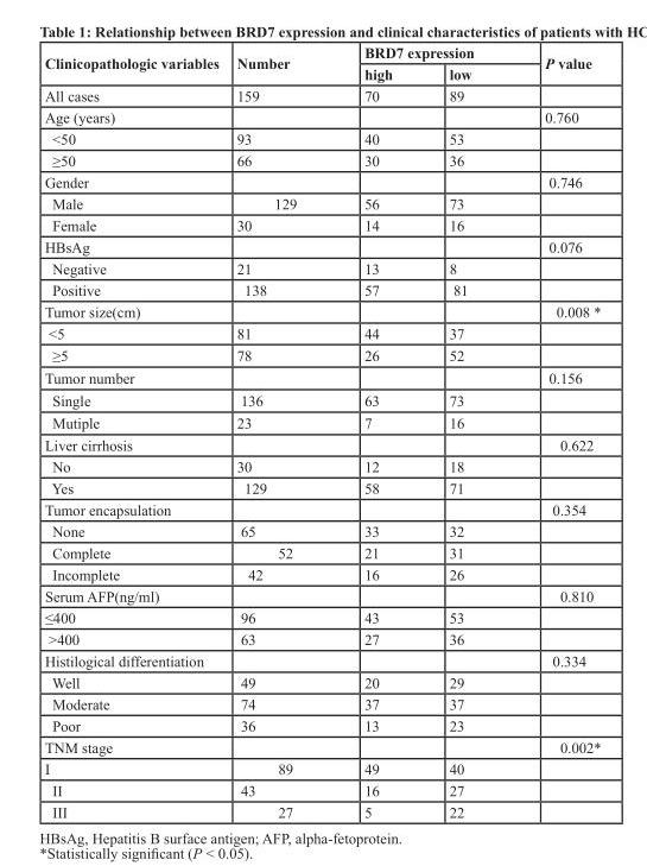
<table><thead><tr><td rowspan="2">Clinicopathologic variables</td><td rowspan="2">Number</td><td colspan="2">BRD7 expression</td><td rowspan="2">P value</td></tr><tr><td>high</td><td>low</td></tr></thead><tbody><tr><td>All cases</td><td>159</td><td>70</td><td>89</td><td></td></tr><tr><td>Age (years)</td><td></td><td></td><td></td><td>0.760</td></tr><tr><td>&lt;50</td><td>93</td><td>40</td><td>53</td><td></td></tr><tr><td>≥50</td><td>66</td><td>30</td><td>36</td><td></td></tr><tr><td>Gender</td><td></td><td></td><td></td><td>0.746</td></tr><tr><td>Male</td><td>129</td><td>56</td><td>73</td><td></td></tr><tr><td>Female</td><td>30</td><td>14</td><td>16</td><td></td></tr><tr><td>HBsAg</td><td></td><td></td><td></td><td>0.076</td></tr><tr><td>Negative</td><td>21</td><td>13</td><td>8</td><td></td></tr><tr><td>Positive</td><td>138</td><td>57</td><td>81</td><td></td></tr><tr><td>Tumor size(cm)</td><td></td><td></td><td></td><td>0.008 *</td></tr><tr><td>&lt;5</td><td>81</td><td>44</td><td>37</td><td></td></tr><tr><td>≥5</td><td>78</td><td>26</td><td>52</td><td></td></tr><tr><td>Tumor number</td><td></td><td></td><td></td><td>0.156</td></tr><tr><td>Single</td><td>136</td><td>63</td><td>73</td><td></td></tr><tr><td>Mutiple</td><td>23</td><td>7</td><td>16</td><td></td></tr><tr><td>Liver cirrhosis</td><td></td><td></td><td></td><td>0.622</td></tr><tr><td>No</td><td>30</td><td>12</td><td>18</td><td></td></tr><tr><td>Yes</td><td>129</td><td>58</td><td>71</td><td></td></tr><tr><td>Tumor encapsulation</td><td></td><td></td><td></td><td>0.354</td></tr><tr><td>None</td><td>65</td><td>33</td><td>32</td><td></td></tr><tr><td>Complete</td><td>52</td><td>21</td><td>31</td><td></td></tr><tr><td>Incomplete</td><td>42</td><td>16</td><td>26</td><td></td></tr><tr><td>Serum AFP(ng/ml)</td><td></td><td></td><td></td><td>0.810</td></tr><tr><td>≤400</td><td>96</td><td>43</td><td>53</td><td></td></tr><tr><td>&gt;400</td><td>63</td><td>27</td><td>36</td><td></td></tr><tr><td>Histilogical differentiation</td><td></td><td></td><td></td><td>0.334</td></tr><tr><td>Well</td><td>49</td><td>20</td><td>29</td><td></td></tr><tr><td>Moderate</td><td>74</td><td>37</td><td>37</td><td></td></tr><tr><td>Poor</td><td>36</td><td>13</td><td>23</td><td></td></tr><tr><td>TNM stage</td><td></td><td></td><td></td><td>0.002*</td></tr><tr><td>I</td><td>89</td><td>49</td><td>40</td><td></td></tr><tr><td>II</td><td>43</td><td>16</td><td>27</td><td></td></tr><tr><td>III</td><td>27</td><td>5</td><td>22</td><td></td></tr></tbody></table>